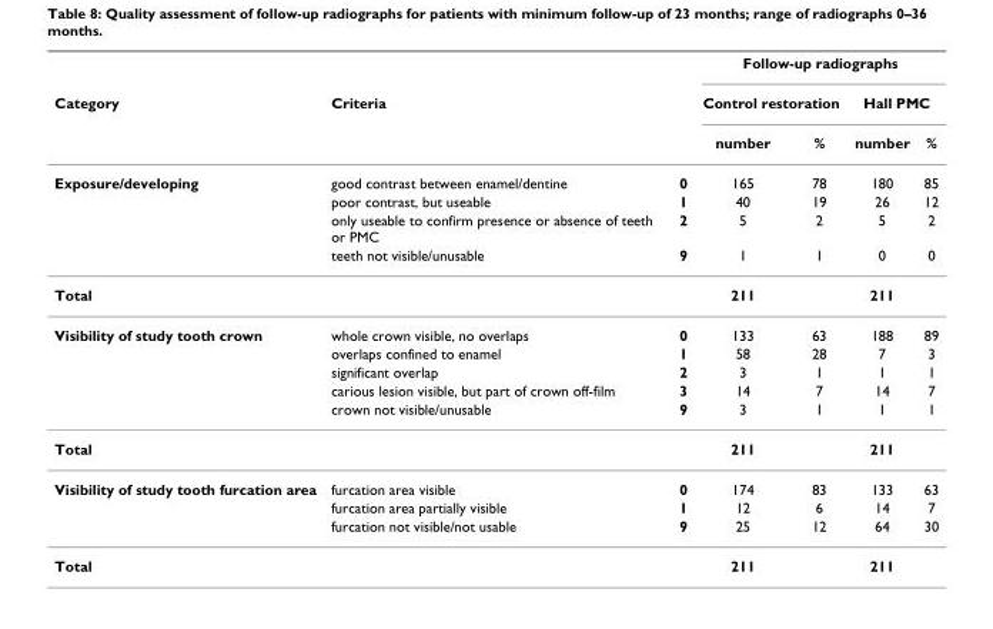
<table><thead><tr><td rowspan="3">Category</td><td></td><td></td><td colspan="4">Follow-up radiographs</td></tr><tr><td colspan="2">Criteria</td><td colspan="2">Control restoration</td><td colspan="2">Hall PMC</td></tr><tr><td></td><td></td><td>number</td><td>%</td><td>number</td><td>%</td></tr></thead><tbody><tr><td rowspan="4">Exposure/developing</td><td>good contrast between enamel/dentine</td><td>0</td><td>165</td><td>78</td><td>180</td><td>85</td></tr><tr><td>poor contrast, but useable</td><td>1</td><td>40</td><td>19</td><td>26</td><td>12</td></tr><tr><td>only useable to confirm presence or absence of teeth or PMC</td><td>2</td><td>5</td><td>2</td><td>5</td><td>2</td></tr><tr><td>teeth not visible/unusable</td><td>9</td><td>1</td><td>1</td><td>0</td><td>0</td></tr><tr><td>Total</td><td></td><td></td><td>211</td><td></td><td>211</td><td></td></tr><tr><td rowspan="5">Visibility of study tooth crown</td><td>whole crown visible, no overlaps</td><td>0</td><td>133</td><td>63</td><td>188</td><td>89</td></tr><tr><td>overlaps confined to enamel</td><td>1</td><td>58</td><td>28</td><td>7</td><td>3</td></tr><tr><td>significant overlap</td><td>2</td><td>3</td><td>1</td><td>1</td><td>1</td></tr><tr><td>carious lesion visible, but part of crown off-film</td><td>3</td><td>14</td><td>7</td><td>14</td><td>7</td></tr><tr><td>crown not visible/unusable</td><td>9</td><td>3</td><td>1</td><td>1</td><td>1</td></tr><tr><td>Total</td><td></td><td></td><td>211</td><td></td><td>211</td><td></td></tr><tr><td rowspan="3">Visibility of study tooth furcation area</td><td>furcation area visible</td><td>0</td><td>174</td><td>83</td><td>133</td><td>63</td></tr><tr><td>furcation area partially visible</td><td>1</td><td>12</td><td>6</td><td>14</td><td>7</td></tr><tr><td>furcation not visible/not usable</td><td>9</td><td>25</td><td>12</td><td>64</td><td>30</td></tr><tr><td>Total</td><td></td><td></td><td>211</td><td></td><td>211</td><td></td></tr></tbody></table>